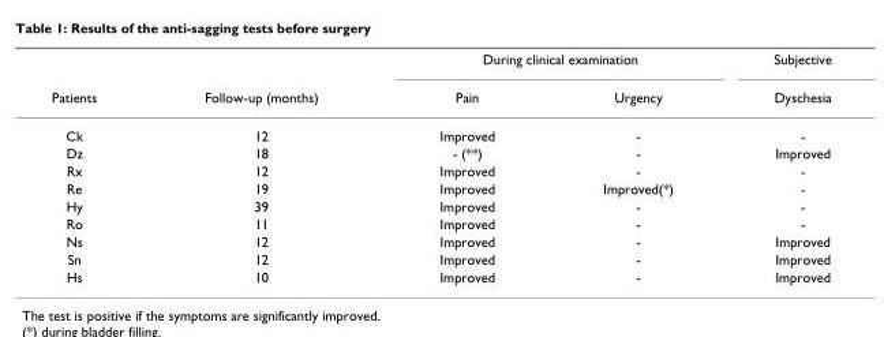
<table><thead><tr><td rowspan="2">Patients</td><td rowspan="2">Follow-up (months)</td><td colspan="2">During clinical examination</td><td rowspan="2">Subjective Dyschesia</td></tr><tr><td>Pain</td><td>Urgency</td></tr></thead><tbody><tr><td>Ck</td><td>12</td><td>Improved</td><td>-</td><td>-</td></tr><tr><td>Dz</td><td>18</td><td>- (**)</td><td>-</td><td>Improved</td></tr><tr><td>Rx</td><td>12</td><td>Improved</td><td>-</td><td>-</td></tr><tr><td>Re</td><td>19</td><td>Improved</td><td>Improved(*)</td><td>-</td></tr><tr><td>Hy</td><td>39</td><td>Improved</td><td>-</td><td>-</td></tr><tr><td>Ro</td><td>11</td><td>Improved</td><td>-</td><td>-</td></tr><tr><td>Ns</td><td>12</td><td>Improved</td><td>-</td><td>Improved</td></tr><tr><td>Sn</td><td>12</td><td>Improved</td><td>-</td><td>Improved</td></tr><tr><td>Hs</td><td>10</td><td>Improved</td><td>-</td><td>Improved</td></tr></tbody></table>